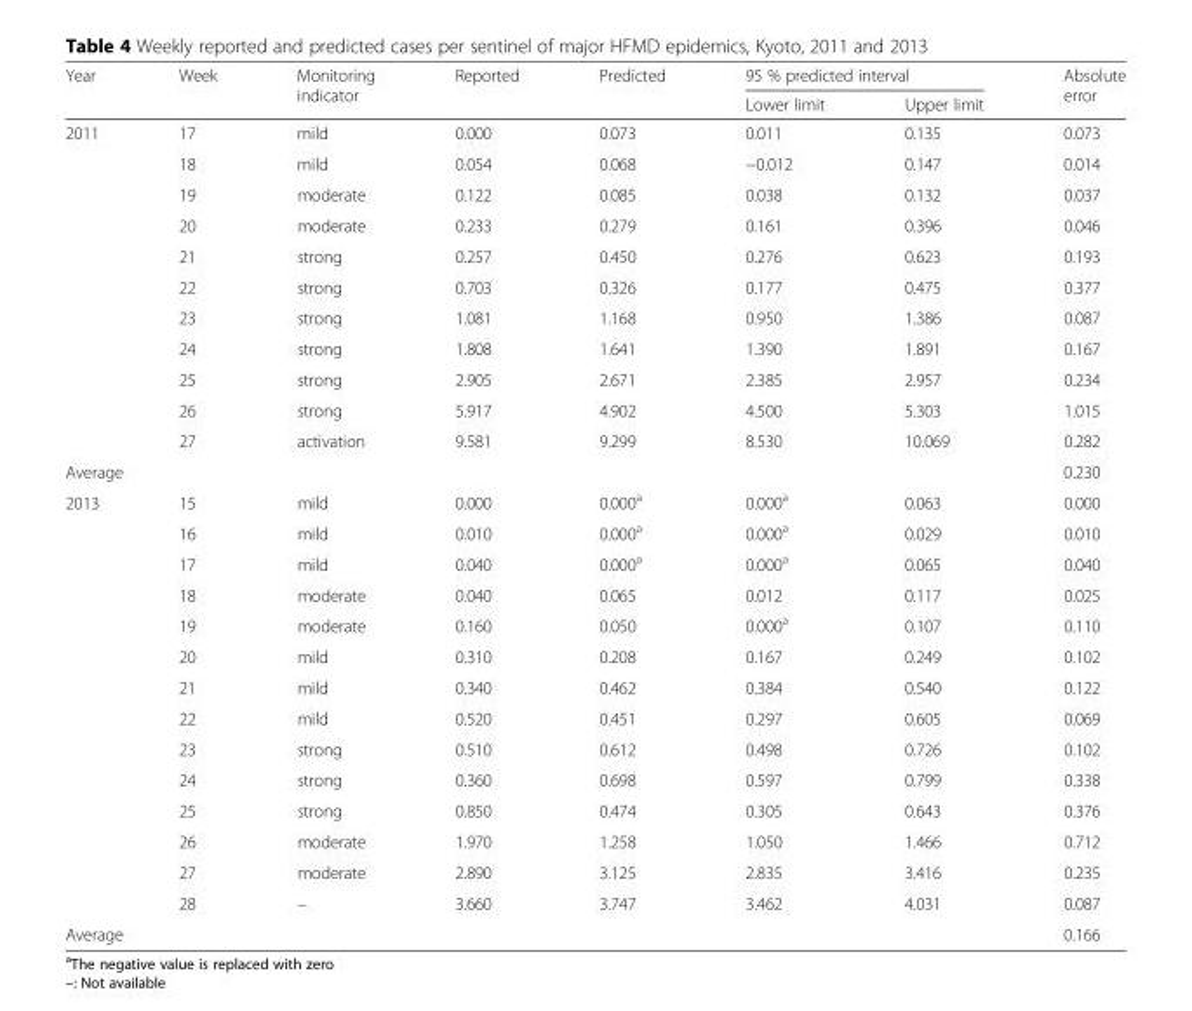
<table><thead><tr><td rowspan="2">Year</td><td rowspan="2">Week</td><td rowspan="2">Monitoring indicator</td><td rowspan="2">Reported</td><td rowspan="2">Predicted</td><td colspan="2">95 % predicted interval</td><td rowspan="2">Absolute error</td></tr><tr><td>Lower limit</td><td>Upper limit</td></tr></thead><tbody><tr><td rowspan="11">2011</td><td>17</td><td>mild</td><td>0.000</td><td>0.073</td><td>0.011</td><td>0.135</td><td>0.073</td></tr><tr><td>18</td><td>mild</td><td>0.054</td><td>0.068</td><td>−0.012</td><td>0.147</td><td>0.014</td></tr><tr><td>19</td><td>moderate</td><td>0.122</td><td>0.085</td><td>0.038</td><td>0.132</td><td>0.037</td></tr><tr><td>20</td><td>moderate</td><td>0.233</td><td>0.279</td><td>0.161</td><td>0.396</td><td>0.046</td></tr><tr><td>21</td><td>strong</td><td>0.257</td><td>0.450</td><td>0.276</td><td>0.623</td><td>0.193</td></tr><tr><td>22</td><td>strong</td><td>0.703</td><td>0.326</td><td>0.177</td><td>0.475</td><td>0.377</td></tr><tr><td>23</td><td>strong</td><td>1.081</td><td>1.168</td><td>0.950</td><td>1.386</td><td>0.087</td></tr><tr><td>24</td><td>strong</td><td>1.808</td><td>1.641</td><td>1.390</td><td>1.891</td><td>0.167</td></tr><tr><td>25</td><td>strong</td><td>2.905</td><td>2.671</td><td>2.385</td><td>2.957</td><td>0.234</td></tr><tr><td>26</td><td>strong</td><td>5.917</td><td>4.902</td><td>4.500</td><td>5.303</td><td>1.015</td></tr><tr><td>27</td><td>activation</td><td>9.581</td><td>9.299</td><td>8.530</td><td>10.069</td><td>0.282</td></tr><tr><td colspan="2">Average</td><td></td><td></td><td></td><td></td><td></td><td>0.230</td></tr><tr><td rowspan="14">2013</td><td>15</td><td>mild</td><td>0.000</td><td>0.000<sup>a</sup></td><td>0.000<sup>a</sup></td><td>0.063</td><td>0.000</td></tr><tr><td>16</td><td>mild</td><td>0.010</td><td>0.000<sup>a</sup></td><td>0.000<sup>a</sup></td><td>0.029</td><td>0.010</td></tr><tr><td>17</td><td>mild</td><td>0.040</td><td>0.000<sup>a</sup></td><td>0.000<sup>a</sup></td><td>0.065</td><td>0.040</td></tr><tr><td>18</td><td>moderate</td><td>0.040</td><td>0.065</td><td>0.012</td><td>0.117</td><td>0.025</td></tr><tr><td>19</td><td>moderate</td><td>0.160</td><td>0.050</td><td>0.000<sup>a</sup></td><td>0.107</td><td>0.110</td></tr><tr><td>20</td><td>mild</td><td>0.310</td><td>0.208</td><td>0.167</td><td>0.249</td><td>0.102</td></tr><tr><td>21</td><td>mild</td><td>0.340</td><td>0.462</td><td>0.384</td><td>0.540</td><td>0.122</td></tr><tr><td>22</td><td>mild</td><td>0.520</td><td>0.451</td><td>0.297</td><td>0.605</td><td>0.069</td></tr><tr><td>23</td><td>strong</td><td>0.510</td><td>0.612</td><td>0.498</td><td>0.726</td><td>0.102</td></tr><tr><td>24</td><td>strong</td><td>0.360</td><td>0.698</td><td>0.597</td><td>0.799</td><td>0.338</td></tr><tr><td>25</td><td>strong</td><td>0.850</td><td>0.474</td><td>0.305</td><td>0.643</td><td>0.376</td></tr><tr><td>26</td><td>moderate</td><td>1.970</td><td>1.258</td><td>1.050</td><td>1.466</td><td>0.712</td></tr><tr><td>27</td><td>moderate</td><td>2.890</td><td>3.125</td><td>2.835</td><td>3.416</td><td>0.235</td></tr><tr><td>28</td><td>–</td><td>3.660</td><td>3.747</td><td>3.462</td><td>4.031</td><td>0.087</td></tr><tr><td colspan="2">Average</td><td></td><td></td><td></td><td></td><td></td><td>0.166</td></tr></tbody></table>